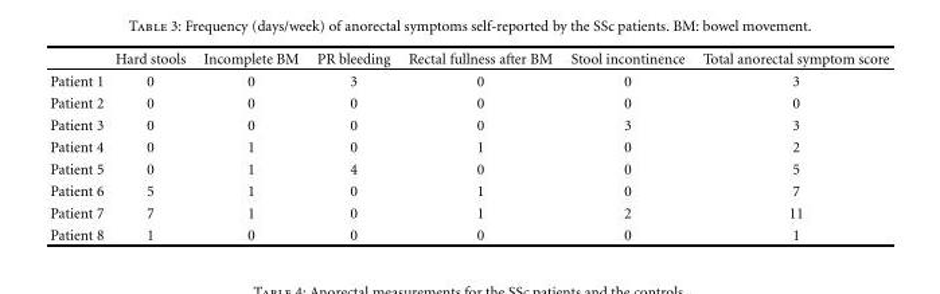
<table><thead><tr><td></td><td>Hard stools</td><td>Incomplete BM</td><td>PR bleeding</td><td>Rectal fullness after BM</td><td>Stool incontinence</td><td>Total anorectal symptom score</td></tr></thead><tbody><tr><td>Patient 1</td><td>0</td><td>0</td><td>3</td><td>0</td><td>0</td><td>3</td></tr><tr><td>Patient 2</td><td>0</td><td>0</td><td>0</td><td>0</td><td>0</td><td>0</td></tr><tr><td>Patient 3</td><td>0</td><td>0</td><td>0</td><td>0</td><td>3</td><td>3</td></tr><tr><td>Patient 4</td><td>0</td><td>1</td><td>0</td><td>1</td><td>0</td><td>2</td></tr><tr><td>Patient 5</td><td>0</td><td>1</td><td>4</td><td>0</td><td>0</td><td>5</td></tr><tr><td>Patient 6</td><td>5</td><td>1</td><td>0</td><td>1</td><td>0</td><td>7</td></tr><tr><td>Patient 7</td><td>7</td><td>1</td><td>0</td><td>1</td><td>2</td><td>11</td></tr><tr><td>Patient 8</td><td>1</td><td>0</td><td>0</td><td>0</td><td>0</td><td>1</td></tr></tbody></table>